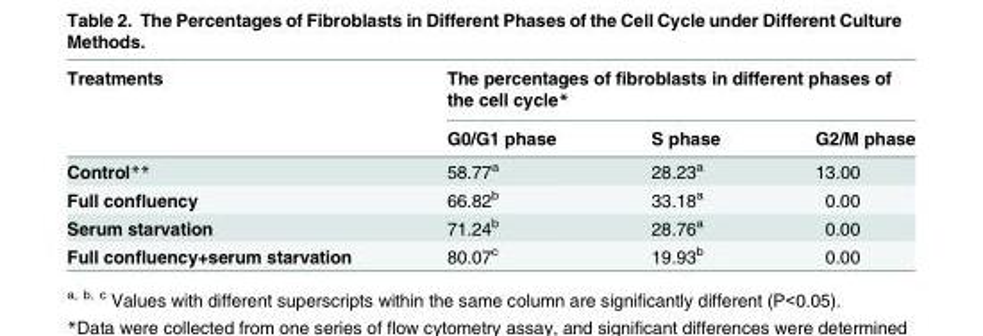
<table><thead><tr><td rowspan="2">Treatments</td><td colspan="3">The percentages of fibroblasts in different phases of the cell cycle*</td></tr><tr><td>G0/G1 phase</td><td>S phase</td><td>G2/M phase</td></tr></thead><tbody><tr><td>Control**</td><td>58.77<sup>a</sup></td><td>28.23<sup>a</sup></td><td>13.00</td></tr><tr><td>Full confluency</td><td>66.82<sup>b</sup></td><td>33.18<sup>a</sup></td><td>0.00</td></tr><tr><td>Serum starvation</td><td>71.24<sup>b</sup></td><td>28.76<sup>a</sup></td><td>0.00</td></tr><tr><td>Full confluency+serum starvation</td><td>80.07<sup>c</sup></td><td>19.93<sup>b</sup></td><td>0.00</td></tr></tbody></table>